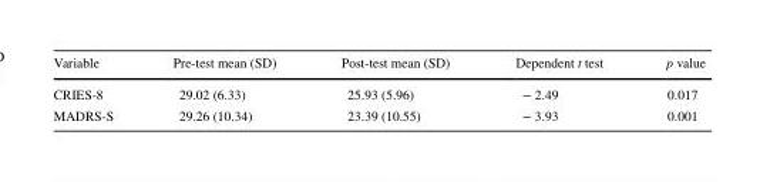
<table><thead><tr><td>Variable</td><td>Pre-test mean (SD)</td><td>Post-test mean (SD)</td><td>Dependent t test</td><td>p value</td></tr></thead><tbody><tr><td>CRIES-8</td><td>29.02 (6.33)</td><td>25.93 (5.96)</td><td>− 2.49</td><td>0.017</td></tr><tr><td>MADRS-S</td><td>29.26 (10.34)</td><td>23.39 (10.55)</td><td>− 3.93</td><td>0.001</td></tr></tbody></table>